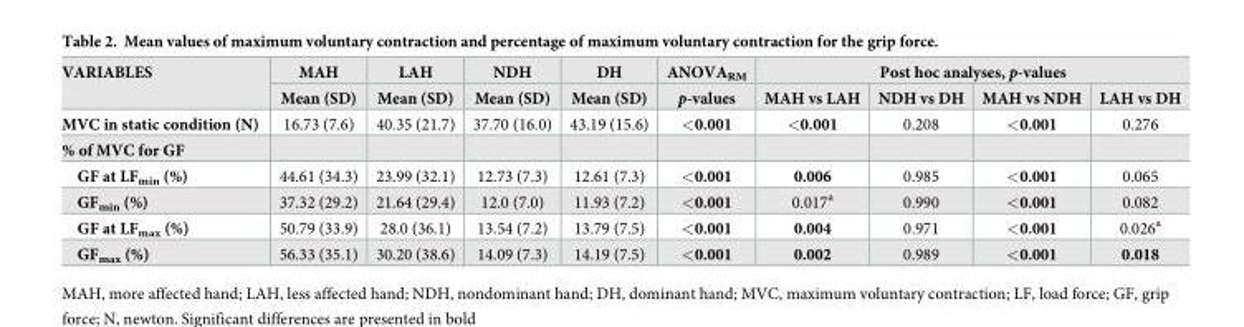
<table><thead><tr><td rowspan="2">VARIABLES</td><td rowspan="2">MAH Mean (SD)</td><td rowspan="2">LAH Mean (SD)</td><td rowspan="2">NDH Mean (SD)</td><td rowspan="2">DH Mean (SD)</td><td rowspan="2">ANOVA<sub>RM</sub> p-values</td><td colspan="4">Post hoc analyses, p-values</td></tr><tr><td>MAH vs LAH</td><td>NDH vs DH</td><td>MAH vs NDH</td><td>LAH vs DH</td></tr></thead><tbody><tr><td>MVC in static condition (N)</td><td>16.73 (7.6)</td><td>40.35 (21.7)</td><td>37.70 (16.0)</td><td>43.19 (15.6)</td><td>&lt;0.001</td><td>&lt;0.001</td><td>0.208</td><td>&lt;0.001</td><td>0.276</td></tr><tr><td colspan="10">% of MVC for GF</td></tr><tr><td>GF at LF<sub>min</sub> (%)</td><td>44.61 (34.3)</td><td>23.99 (32.1)</td><td>12.73 (7.3)</td><td>12.61 (7.3)</td><td>&lt;0.001</td><td>0.006</td><td>0.985</td><td>&lt;0.001</td><td>0.065</td></tr><tr><td>GF<sub>min</sub> (%)</td><td>37.32 (29.2)</td><td>21.64 (29.4)</td><td>12.0 (7.0)</td><td>11.93 (7.2)</td><td>&lt;0.001</td><td>0.017<sup>a</sup></td><td>0.990</td><td>&lt;0.001</td><td>0.082</td></tr><tr><td>GF at LF<sub>max</sub> (%)</td><td>50.79 (33.9)</td><td>28.0 (36.1)</td><td>13.54 (7.2)</td><td>13.79 (7.5)</td><td>&lt;0.001</td><td>0.004</td><td>0.971</td><td>&lt;0.001</td><td>0.026<sup>a</sup></td></tr><tr><td>GF<sub>max</sub> (%)</td><td>56.33 (35.1)</td><td>30.20 (38.6)</td><td>14.09 (7.3)</td><td>14.19 (7.5)</td><td>&lt;0.001</td><td>0.002</td><td>0.989</td><td>&lt;0.001</td><td>0.018</td></tr></tbody></table>